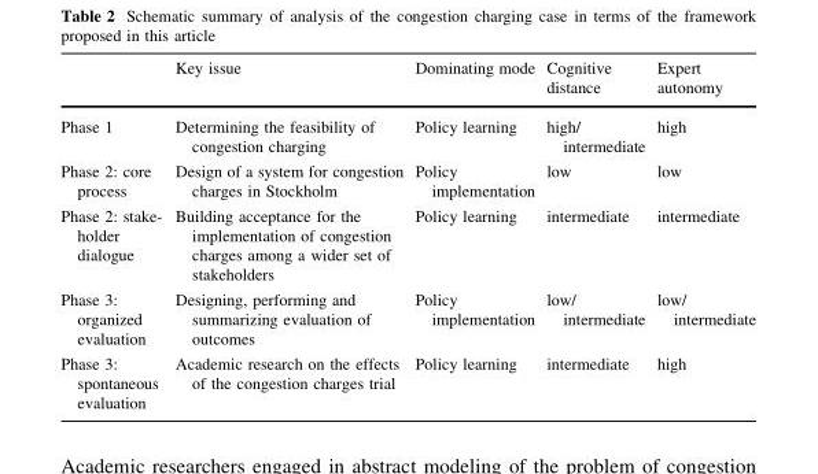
<table><thead><tr><td></td><td>Key issue</td><td>Dominating mode</td><td>Cognitive distance</td><td>Expert autonomy</td></tr></thead><tbody><tr><td>Phase 1</td><td>Determining the feasibility of congestion charging</td><td>Policy learning</td><td>high/ intermediate</td><td>high</td></tr><tr><td>Phase 2: core process</td><td>Design of a system for congestion charges in Stockholm</td><td>Policy implementation</td><td>low</td><td>low</td></tr><tr><td>Phase 2: stake- holder dialogue</td><td>Building acceptance for the implementation of congestion charges among a wider set of stakeholders</td><td>Policy learning</td><td>intermediate</td><td>intermediate</td></tr><tr><td>Phase 3: organized evaluation</td><td>Designing, performing and summarizing evaluation of outcomes</td><td>Policy implementation</td><td>low/ intermediate</td><td>low/ intermediate</td></tr><tr><td>Phase 3: spontaneous evaluation</td><td>Academic research on the effects of the congestion charges trial</td><td>Policy learning</td><td>intermediate</td><td>high</td></tr></tbody></table>